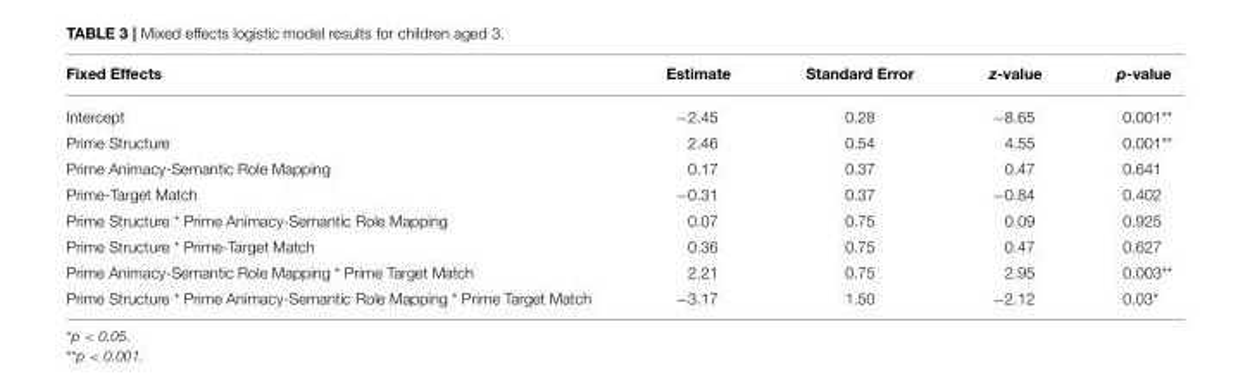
<table><thead><tr><td>Fixed Effects</td><td>Estimate</td><td>Standard Error</td><td>z-value</td><td>p-value</td></tr></thead><tbody><tr><td>Intercept</td><td>−2.45</td><td>0.28</td><td>−8.65</td><td>0.001**</td></tr><tr><td>Prime Structure</td><td>2.46</td><td>0.54</td><td>4.55</td><td>0.001**</td></tr><tr><td>Prime Animacy-Semantic Role Mapping</td><td>0.17</td><td>0.37</td><td>0.47</td><td>0.641</td></tr><tr><td>Prime-Target Match</td><td>−0.31</td><td>0.37</td><td>−0.84</td><td>0.402</td></tr><tr><td>Prime Structure * Prime Animacy-Semantic Role Mapping</td><td>0.07</td><td>0.75</td><td>0.09</td><td>0.925</td></tr><tr><td>Prime Structure * Prime-Target Match</td><td>0.36</td><td>0.75</td><td>0.47</td><td>0.627</td></tr><tr><td>Prime Animacy-Semantic Role Mapping * Prime Target Match</td><td>2.21</td><td>0.75</td><td>2.95</td><td>0.003**</td></tr><tr><td>Prime Structure * Prime Animacy-Semantic Role Mapping * Prime Target Match</td><td>−3.17</td><td>1.50</td><td>−2.12</td><td>0.03*</td></tr></tbody></table>